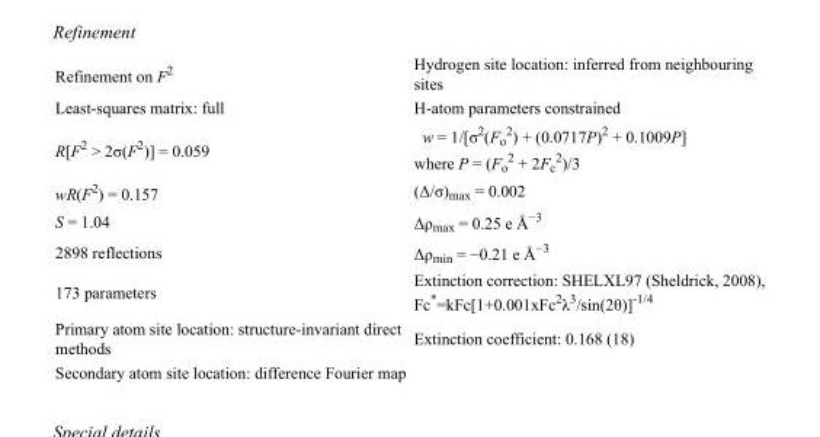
<table><tbody><tr><td>Refinement on F<sup>2</sup></td><td>Hydrogen site location: inferred from neighbouring sites</td></tr><tr><td>Least-squares matrix: full</td><td>H-atom parameters constrained</td></tr><tr><td>R[F<sup>2</sup> &gt; 2σ(F<sup>2</sup>)] = 0.059</td><td>w = 1/[σ<sup>2</sup>(F<sub>o</sub> <sup>2</sup>) + (0.0717P)<sup>2</sup> + 0.1009P] where P = (F<sub>o</sub> <sup>2</sup> + 2F<sub>c</sub> <sup>2</sup>)/3</td></tr><tr><td>wR(F<sup>2</sup>) = 0.157</td><td>(Δ/σ)<sub>max</sub> = 0.002</td></tr><tr><td>S = 1.04</td><td>Δρ<sub>max</sub> = 0.25 e Å<sup>−3</sup></td></tr><tr><td>2898 reflections</td><td>Δρ<sub>min</sub> = −0.21 e Å<sup>−3</sup></td></tr><tr><td>173 parameters</td><td>Extinction correction: SHELXL97 (Sheldrick, 2008), Fc*=kFc[1+0.001xFc<sup>2</sup>λ<sup>3</sup>/sin(2θ)]<sup>-1/4</sup></td></tr><tr><td>Primary atom site location: structure-invariant direct methods</td><td>Extinction coefficient: 0.168 (18)</td></tr><tr><td>Secondary atom site location: difference Fourier map</td><td></td></tr></tbody></table>